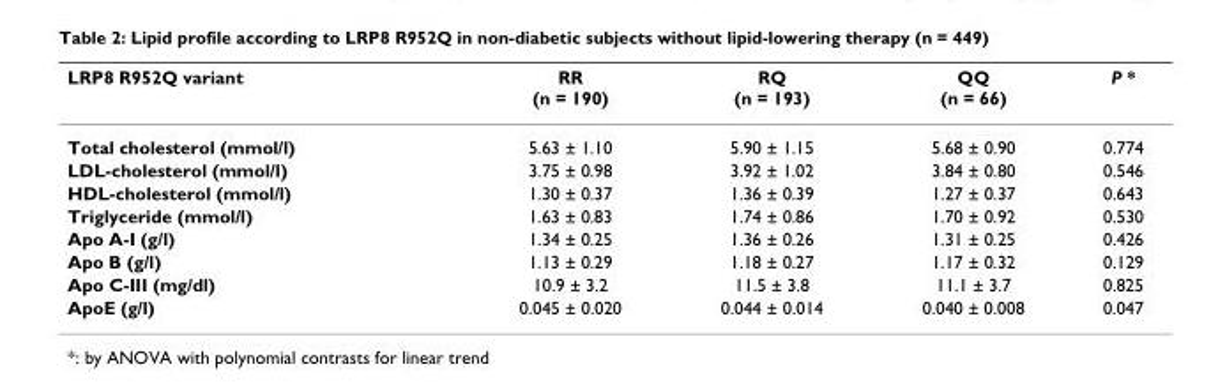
<table><thead><tr><td>LRP8 R952Q variant</td><td>RR (n = 190)</td><td>RQ (n = 193)</td><td>QQ (n = 66)</td><td>P *</td></tr></thead><tbody><tr><td>Total cholesterol (mmol/l)</td><td>5.63 ± 1.10</td><td>5.90 ± 1.15</td><td>5.68 ± 0.90</td><td>0.774</td></tr><tr><td>LDL-cholesterol (mmol/l)</td><td>3.75 ± 0.98</td><td>3.92 ± 1.02</td><td>3.84 ± 0.80</td><td>0.546</td></tr><tr><td>HDL-cholesterol (mmol/l)</td><td>1.30 ± 0.37</td><td>1.36 ± 0.39</td><td>1.27 ± 0.37</td><td>0.643</td></tr><tr><td>Triglyceride (mmol/l)</td><td>1.63 ± 0.83</td><td>1.74 ± 0.86</td><td>1.70 ± 0.92</td><td>0.530</td></tr><tr><td>Apo A-I (g/l)</td><td>1.34 ± 0.25</td><td>1.36 ± 0.26</td><td>1.31 ± 0.25</td><td>0.426</td></tr><tr><td>Apo B (g/l)</td><td>1.13 ± 0.29</td><td>1.18 ± 0.27</td><td>1.17 ± 0.32</td><td>0.129</td></tr><tr><td>Apo C-III (mg/dl)</td><td>10.9 ± 3.2</td><td>11.5 ± 3.8</td><td>11.1 ± 3.7</td><td>0.825</td></tr><tr><td>ApoE (g/l)</td><td>0.045 ± 0.020</td><td>0.044 ± 0.014</td><td>0.040 ± 0.008</td><td>0.047</td></tr></tbody></table>